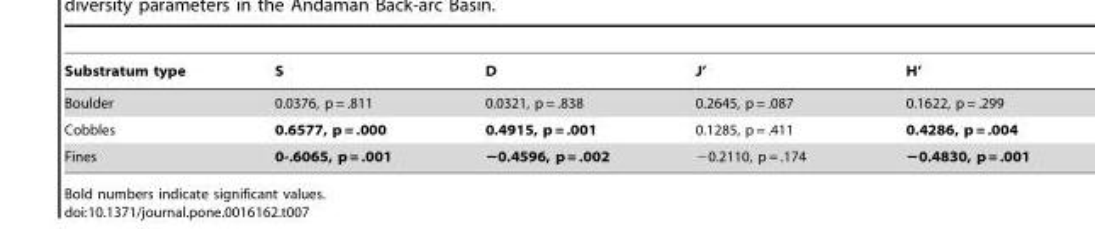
<table><thead><tr><td>Substratum type</td><td>S</td><td>D</td><td>J’</td><td>H’</td></tr></thead><tbody><tr><td>Boulder</td><td>0.0376, p = .811</td><td>0.0321, p = .838</td><td>0.2645, p = .087</td><td>0.1622, p = .299</td></tr><tr><td>Cobbles</td><td>0.6577, p = .000</td><td>0.4915, p = .001</td><td>0.1285, p = .411</td><td>0.4286, p = .004</td></tr><tr><td>Fines</td><td>0-.6065, p = .001</td><td>−0.4596, p = .002</td><td>−0.2110, p = .174</td><td>−0.4830, p = .001</td></tr></tbody></table>